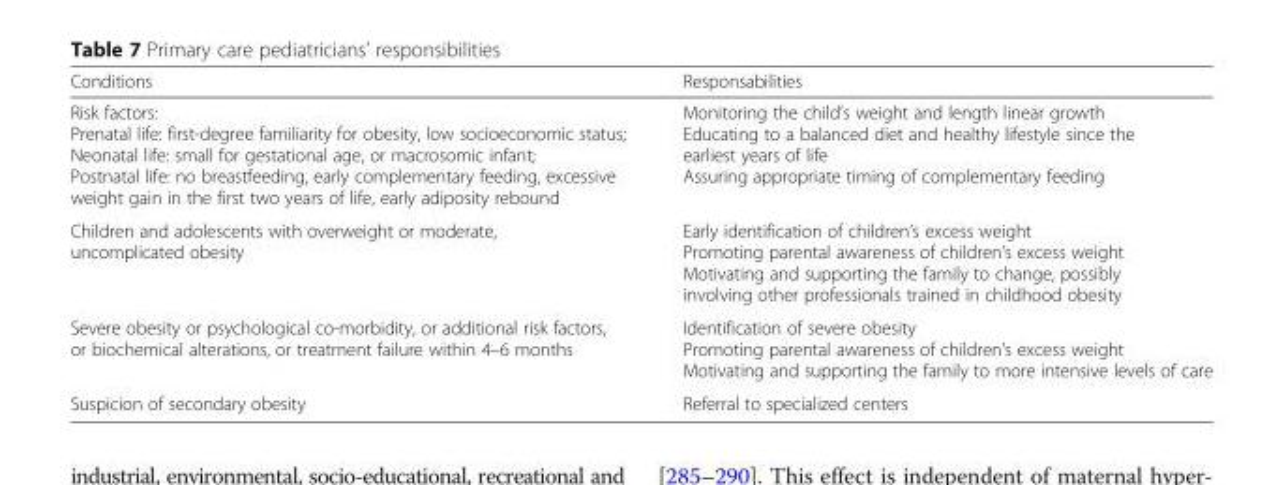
<table><thead><tr><td>Conditions</td><td>Responsabilities</td></tr></thead><tbody><tr><td>Risk factors: Prenatal life: first-degree familiarity for obesity, low socioeconomic status; Neonatal life: small for gestational age, or macrosomic infant; Postnatal life: no breastfeeding, early complementary feeding, excessive weight gain in the first two years of life, early adiposity rebound</td><td>Monitoring the child’s weight and length linear growth Educating to a balanced diet and healthy lifestyle since the earliest years of life Assuring appropriate timing of complementary feeding</td></tr><tr><td>Children and adolescents with overweight or moderate, uncomplicated obesity</td><td>Early identification of children’s excess weight Promoting parental awareness of children’s excess weight Motivating and supporting the family to change, possibly involving other professionals trained in childhood obesity</td></tr><tr><td>Severe obesity or psychological co-morbidity, or additional risk factors, or biochemical alterations, or treatment failure within 4–6 months</td><td>Identification of severe obesity Promoting parental awareness of children’s excess weight Motivating and supporting the family to more intensive levels of care</td></tr><tr><td>Suspicion of secondary obesity</td><td>Referral to specialized centers</td></tr></tbody></table>